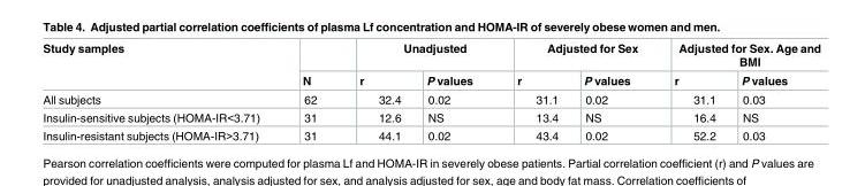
<table><thead><tr><td rowspan="2">Study samples</td><td rowspan="2">N</td><td colspan="2">Unadjusted</td><td colspan="2">Adjusted for Sex</td><td colspan="2">Adjusted for Sex. Age and BMI</td></tr><tr><td>r</td><td>P values</td><td>r</td><td>P values</td><td>r</td><td>P values</td></tr></thead><tbody><tr><td>All subjects</td><td>62</td><td>32.4</td><td>0.02</td><td>31.1</td><td>0.02</td><td>31.1</td><td>0.03</td></tr><tr><td>Insulin-sensitive subjects (HOMA-IR&lt;3.71)</td><td>31</td><td>12.6</td><td>NS</td><td>13.4</td><td>NS</td><td>16.4</td><td>NS</td></tr><tr><td>Insulin-resistant subjects (HOMA-IR&gt;3.71)</td><td>31</td><td>44.1</td><td>0.02</td><td>43.4</td><td>0.02</td><td>52.2</td><td>0.03</td></tr></tbody></table>